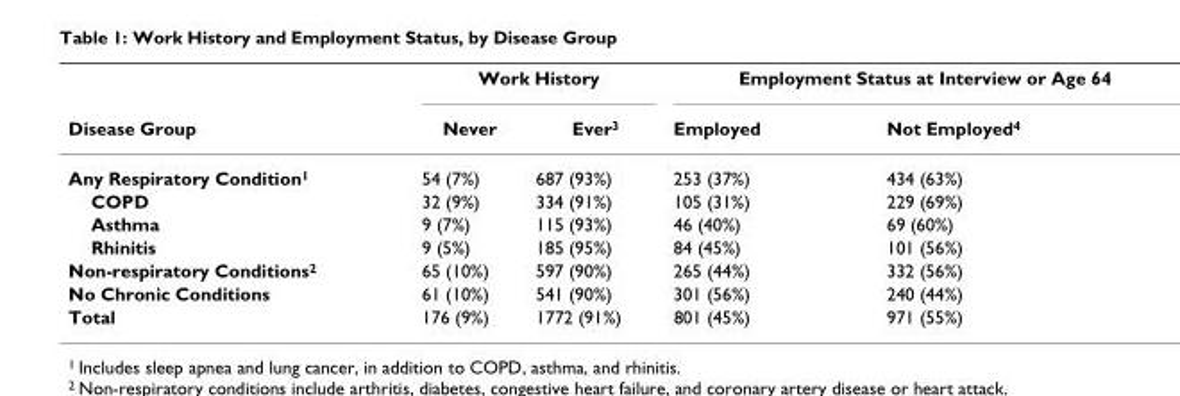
<table><thead><tr><td rowspan="2">Disease Group</td><td colspan="2">Work History</td><td colspan="2">Employment Status at Interview or Age 64</td></tr><tr><td>Never</td><td>Ever<sup>3</sup></td><td>Employed</td><td>Not Employed<sup>4</sup></td></tr></thead><tbody><tr><td>Any Respiratory Condition<sup>1</sup></td><td>54 (7%)</td><td>687 (93%)</td><td>253 (37%)</td><td>434 (63%)</td></tr><tr><td>COPD</td><td>32 (9%)</td><td>334 (91%)</td><td>105 (31%)</td><td>229 (69%)</td></tr><tr><td>Asthma</td><td>9 (7%)</td><td>115 (93%)</td><td>46 (40%)</td><td>69 (60%)</td></tr><tr><td>Rhinitis</td><td>9 (5%)</td><td>185 (95%)</td><td>84 (45%)</td><td>101 (56%)</td></tr><tr><td>Non-respiratory Conditions<sup>2</sup></td><td>65 (10%)</td><td>597 (90%)</td><td>265 (44%)</td><td>332 (56%)</td></tr><tr><td>No Chronic Conditions</td><td>61 (10%)</td><td>541 (90%)</td><td>301 (56%)</td><td>240 (44%)</td></tr><tr><td>Total</td><td>176 (9%)</td><td>1772 (91%)</td><td>801 (45%)</td><td>971 (55%)</td></tr></tbody></table>